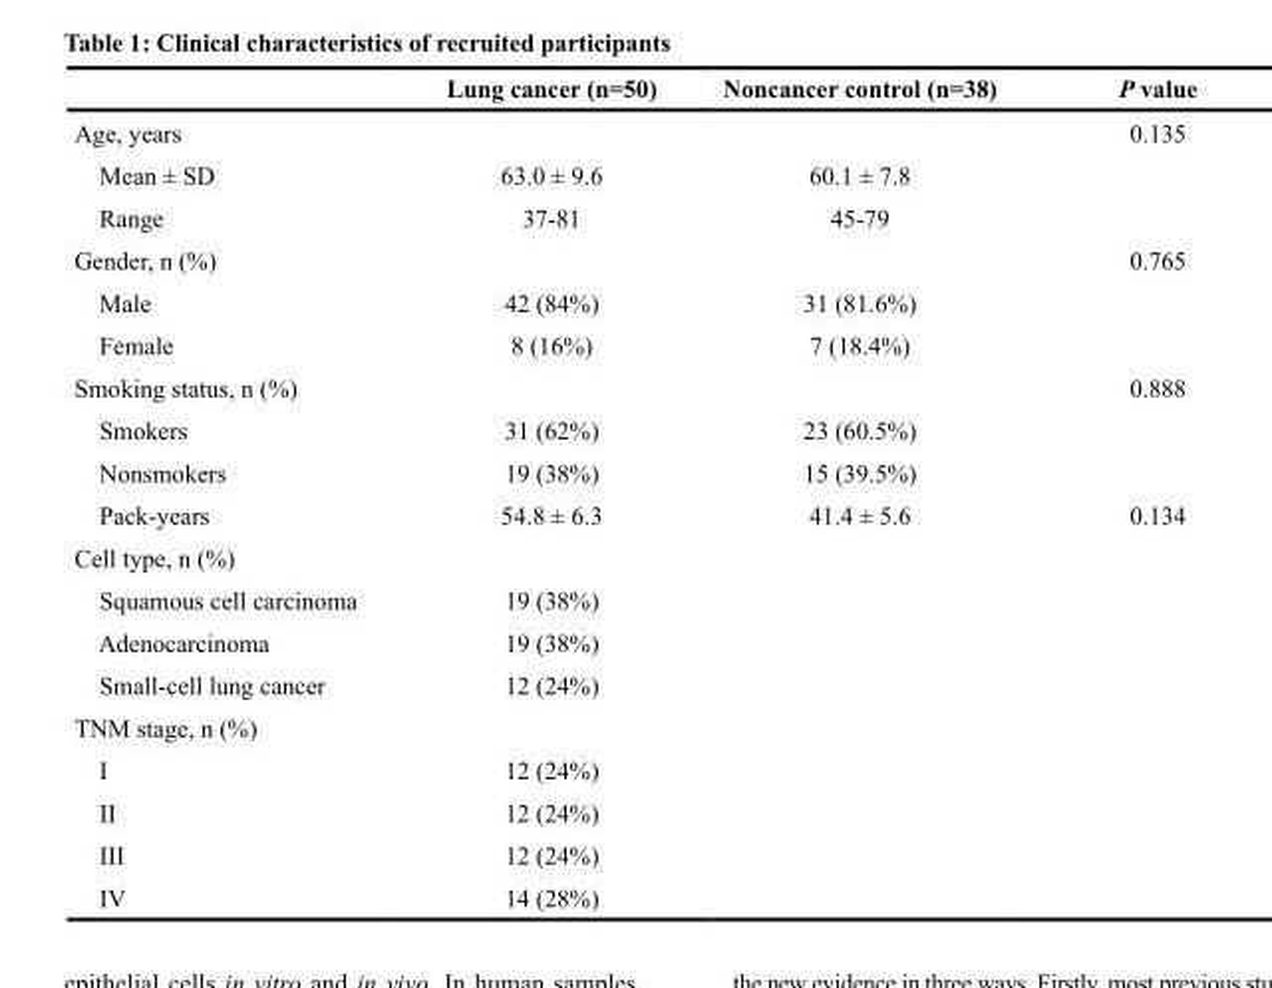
<table><thead><tr><td></td><td>Lung cancer (n=50)</td><td>Noncancer control (n=38)</td><td>P value</td></tr></thead><tbody><tr><td>Age, years</td><td></td><td></td><td>0.135</td></tr><tr><td>Mean ± SD</td><td>63.0 ± 9.6</td><td>60.1 ± 7.8</td><td></td></tr><tr><td>Range</td><td>37-81</td><td>45-79</td><td></td></tr><tr><td>Gender, n (%)</td><td></td><td></td><td>0.765</td></tr><tr><td>Male</td><td>42 (84%)</td><td>31 (81.6%)</td><td></td></tr><tr><td>Female</td><td>8 (16%)</td><td>7 (18.4%)</td><td></td></tr><tr><td>Smoking status, n (%)</td><td></td><td></td><td>0.888</td></tr><tr><td>Smokers</td><td>31 (62%)</td><td>23 (60.5%)</td><td></td></tr><tr><td>Nonsmokers</td><td>19 (38%)</td><td>15 (39.5%)</td><td></td></tr><tr><td>Pack-years</td><td>54.8 ± 6.3</td><td>41.4 ± 5.6</td><td>0.134</td></tr><tr><td colspan="4">Cell type, n (%)</td></tr><tr><td>Squamous cell carcinoma</td><td>19 (38%)</td><td></td><td></td></tr><tr><td>Adenocarcinoma</td><td>19 (38%)</td><td></td><td></td></tr><tr><td>Small-cell lung cancer</td><td>12 (24%)</td><td></td><td></td></tr><tr><td colspan="4">TNM stage, n (%)</td></tr><tr><td>I</td><td>12 (24%)</td><td></td><td></td></tr><tr><td>II</td><td>12 (24%)</td><td></td><td></td></tr><tr><td>III</td><td>12 (24%)</td><td></td><td></td></tr><tr><td>IV</td><td>14 (28%)</td><td></td><td></td></tr></tbody></table>